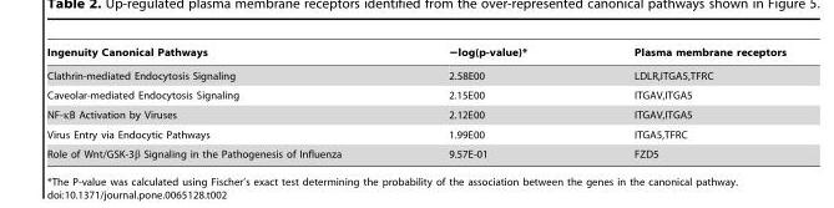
<table><thead><tr><td>Ingenuity Canonical Pathways</td><td>−log(p-value)*</td><td>Plasma membrane receptors</td></tr></thead><tbody><tr><td>Clathrin-mediated Endocytosis Signaling</td><td>2.58E00</td><td>LDLR,ITGA5,TFRC</td></tr><tr><td>Caveolar-mediated Endocytosis Signaling</td><td>2.15E00</td><td>ITGAV,ITGA5</td></tr><tr><td>NF-κB Activation by Viruses</td><td>2.12E00</td><td>ITGAV,ITGA5</td></tr><tr><td>Virus Entry via Endocytic Pathways</td><td>1.99E00</td><td>ITGA5,TFRC</td></tr><tr><td>Role of Wnt/GSK-3β Signaling in the Pathogenesis of Influenza</td><td>9.57E-01</td><td>FZD5</td></tr></tbody></table>